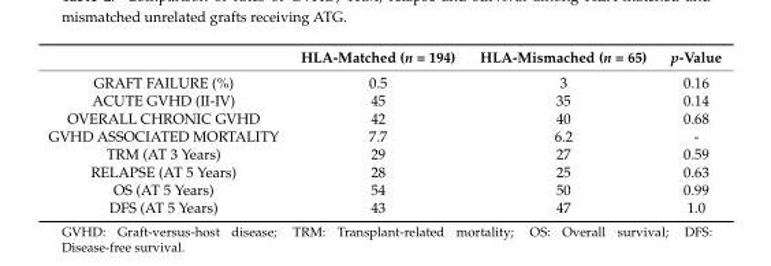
<table><thead><tr><td></td><td>HLA-Matched (n = 194)</td><td>HLA-Mismached (n = 65)</td><td>p-Value</td></tr></thead><tbody><tr><td>GRAFT FAILURE (%)</td><td>0.5</td><td>3</td><td>0.16</td></tr><tr><td>ACUTE GVHD (II-IV)</td><td>45</td><td>35</td><td>0.14</td></tr><tr><td>OVERALL CHRONIC GVHD</td><td>42</td><td>40</td><td>0.68</td></tr><tr><td>GVHD ASSOCIATED MORTALITY</td><td>7.7</td><td>6.2</td><td>-</td></tr><tr><td>TRM (AT 3 Years)</td><td>29</td><td>27</td><td>0.59</td></tr><tr><td>RELAPSE (AT 5 Years)</td><td>28</td><td>25</td><td>0.63</td></tr><tr><td>OS (AT 5 Years)</td><td>54</td><td>50</td><td>0.99</td></tr><tr><td>DFS (AT 5 Years)</td><td>43</td><td>47</td><td>1.0</td></tr></tbody></table>